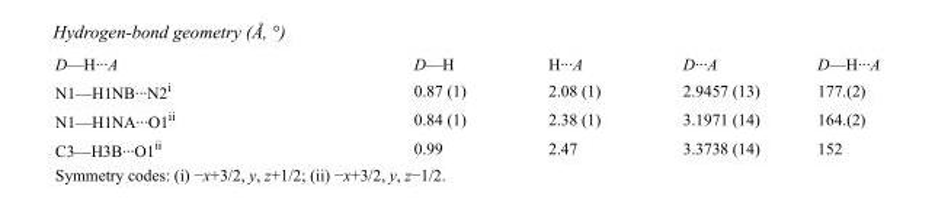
<table><tbody><tr><td>D—H···A</td><td>D—H</td><td>H···A</td><td>D···A</td><td>D—H···A</td></tr><tr><td>N1—H1NB···N2<sup>i</sup></td><td>0.87 (1)</td><td>2.08 (1)</td><td>2.9457 (13)</td><td>177.(2)</td></tr><tr><td>N1—H1NA···O1<sup>ii</sup></td><td>0.84 (1)</td><td>2.38 (1)</td><td>3.1971 (14)</td><td>164.(2)</td></tr><tr><td>C3—H3B···O1<sup>ii</sup></td><td>0.99</td><td>2.47</td><td>3.3738 (14)</td><td>152</td></tr></tbody></table>